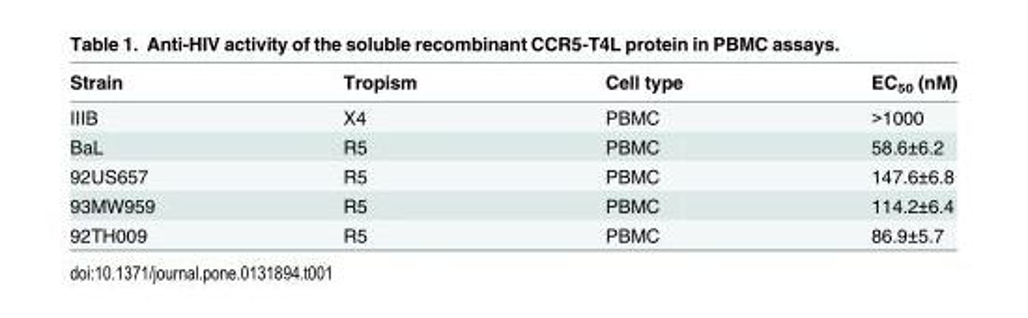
<table><thead><tr><td>Strain</td><td>Tropism</td><td>Cell type</td><td>EC<sub>50</sub> (nM)</td></tr></thead><tbody><tr><td>IIIB</td><td>X4</td><td>PBMC</td><td>&gt;1000</td></tr><tr><td>BaL</td><td>R5</td><td>PBMC</td><td>58.6±6.2</td></tr><tr><td>92US657</td><td>R5</td><td>PBMC</td><td>147.6±6.8</td></tr><tr><td>93MW959</td><td>R5</td><td>PBMC</td><td>114.2±6.4</td></tr><tr><td>92TH009</td><td>R5</td><td>PBMC</td><td>86.9±5.7</td></tr></tbody></table>